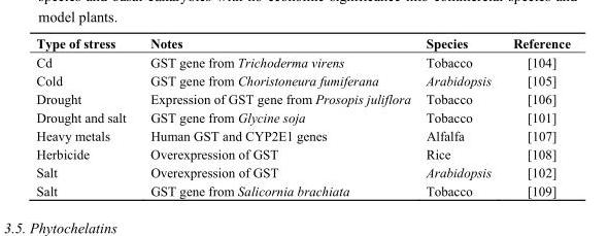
<table><thead><tr><td>Type of stress</td><td>Notes</td><td>Species</td><td>Reference</td></tr></thead><tbody><tr><td>Cd</td><td>GST gene from Trichoderma virens</td><td>Tobacco</td><td>[104]</td></tr><tr><td>Cold</td><td>GST gene from Choristoneura fumiferana</td><td>Arabidopsis</td><td>[105]</td></tr><tr><td>Drought</td><td>Expression of GST gene from Prosopis juliflora</td><td>Tobacco</td><td>[106]</td></tr><tr><td>Drought and salt</td><td>GST gene from Glycine soja</td><td>Tobacco</td><td>[101]</td></tr><tr><td>Heavy metals</td><td>Human GST and CYP2E1 genes</td><td>Alfalfa</td><td>[107]</td></tr><tr><td>Herbicide</td><td>Overexpression of GST</td><td>Rice</td><td>[108]</td></tr><tr><td>Salt</td><td>Overexpression of GST</td><td>Arabidopsis</td><td>[102]</td></tr><tr><td>Salt</td><td>GST gene from Salicornia brachiata</td><td>Tobacco</td><td>[109]</td></tr></tbody></table>